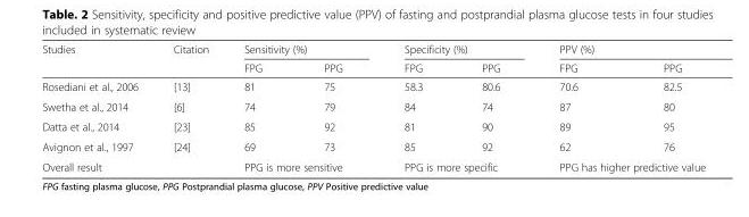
<table><thead><tr><td rowspan="2">Studies</td><td rowspan="2">Citation</td><td colspan="2">Sensitivity (%)</td><td colspan="2">Specificity (%)</td><td colspan="2">PPV (%)</td></tr><tr><td>FPG</td><td>PPG</td><td>FPG</td><td>PPG</td><td>FPG</td><td>PPG</td></tr></thead><tbody><tr><td>Rosediani et al., 2006</td><td>[13]</td><td>81</td><td>75</td><td>58.3</td><td>80.6</td><td>70.6</td><td>82.5</td></tr><tr><td>Swetha et al., 2014</td><td>[6]</td><td>74</td><td>79</td><td>84</td><td>74</td><td>87</td><td>80</td></tr><tr><td>Datta et al., 2014</td><td>[23]</td><td>85</td><td>92</td><td>81</td><td>90</td><td>89</td><td>95</td></tr><tr><td>Avignon et al., 1997</td><td>[24]</td><td>69</td><td>73</td><td>85</td><td>92</td><td>62</td><td>76</td></tr><tr><td colspan="2">Overall result</td><td colspan="2">PPG is more sensitive</td><td colspan="2">PPG is more specific</td><td colspan="2">PPG has higher predictive value</td></tr></tbody></table>